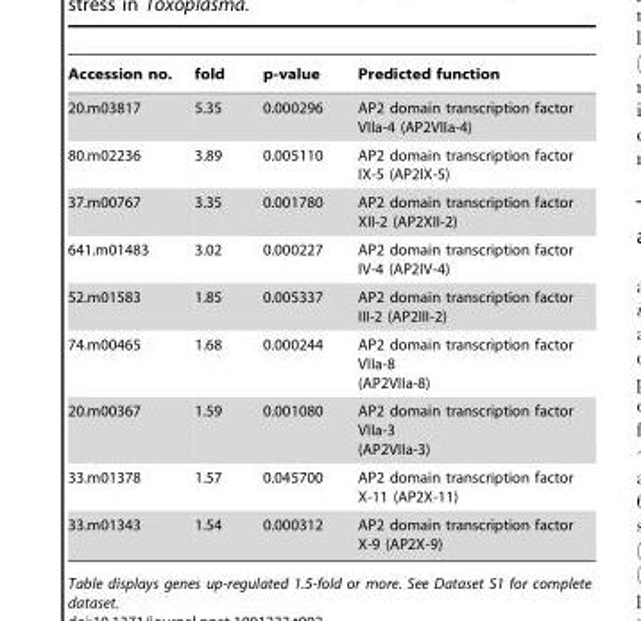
<table><thead><tr><td>Accession no.</td><td>fold</td><td>p-value</td><td>Predicted function</td></tr></thead><tbody><tr><td>20.m03817</td><td>5.35</td><td>0.000296</td><td>AP2 domain transcription factor VIIa-4 (AP2VIIa-4)</td></tr><tr><td>80.m02236</td><td>3.89</td><td>0.005110</td><td>AP2 domain transcription factor IX-5 (AP2IX-5)</td></tr><tr><td>37.m00767</td><td>3.35</td><td>0.001780</td><td>AP2 domain transcription factor XII-2 (AP2XII-2)</td></tr><tr><td>641.m01483</td><td>3.02</td><td>0.000227</td><td>AP2 domain transcription factor IV-4 (AP2IV-4)</td></tr><tr><td>52.m01583</td><td>1.85</td><td>0.005337</td><td>AP2 domain transcription factor III-2 (AP2III-2)</td></tr><tr><td>74.m00465</td><td>1.68</td><td>0.000244</td><td>AP2 domain transcription factor VIIa-8 (AP2VIIa-8)</td></tr><tr><td>20.m00367</td><td>1.59</td><td>0.001080</td><td>AP2 domain transcription factor VIIa-3 (AP2VIIa-3)</td></tr><tr><td>33.m01378</td><td>1.57</td><td>0.045700</td><td>AP2 domain transcription factor X-11 (AP2X-11)</td></tr><tr><td>33.m01343</td><td>1.54</td><td>0.000312</td><td>AP2 domain transcription factor X-9 (AP2X-9)</td></tr></tbody></table>